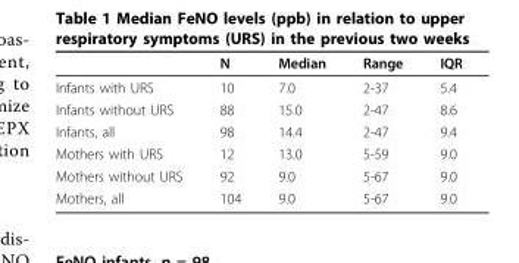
<table><thead><tr><td></td><td>N</td><td>Median</td><td>Range</td><td>IQR</td></tr></thead><tbody><tr><td>Infants with URS</td><td>10</td><td>7.0</td><td>2-37</td><td>5.4</td></tr><tr><td>Infants without URS</td><td>88</td><td>15.0</td><td>2-47</td><td>8.6</td></tr><tr><td>Infants, all</td><td>98</td><td>14.4</td><td>2-47</td><td>9.4</td></tr><tr><td>Mothers with URS</td><td>12</td><td>13.0</td><td>5-59</td><td>9.0</td></tr><tr><td>Mothers without URS</td><td>92</td><td>9.0</td><td>5-67</td><td>9.0</td></tr><tr><td>Mothers, all</td><td>104</td><td>9.0</td><td>5-67</td><td>9.0</td></tr></tbody></table>